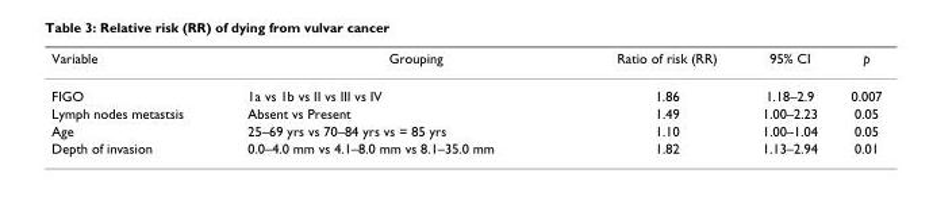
<table><thead><tr><td>Variable</td><td>Grouping</td><td>Ratio of risk (RR)</td><td>95% CI</td><td>p</td></tr></thead><tbody><tr><td>FIGO</td><td>1a vs 1b vs II vs III vs IV</td><td>1.86</td><td>1.18–2.9</td><td>0.007</td></tr><tr><td>Lymph nodes metastsis</td><td>Absent vs Present</td><td>1.49</td><td>1.00–2.23</td><td>0.05</td></tr><tr><td>Age</td><td>25–69 yrs vs 70–84 yrs vs = 85 yrs</td><td>1.10</td><td>1.00–1.04</td><td>0.05</td></tr><tr><td>Depth of invasion</td><td>0.0–4.0 mm vs 4.1–8.0 mm vs 8.1–35.0 mm</td><td>1.82</td><td>1.13–2.94</td><td>0.01</td></tr></tbody></table>